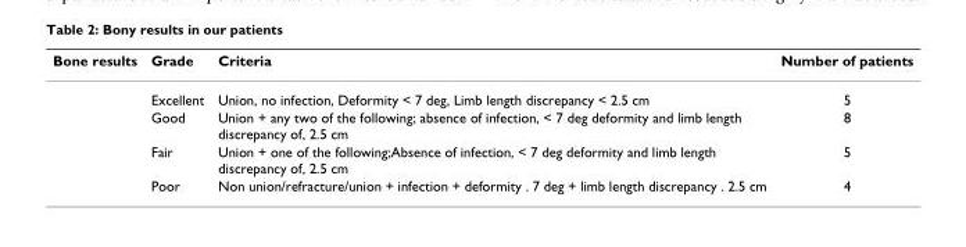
<table><thead><tr><td>Bone results</td><td>Grade</td><td>Criteria</td><td>Number of patients</td></tr></thead><tbody><tr><td></td><td>Excellent</td><td>Union, no infection, Deformity &lt; 7 deg, Limb length discrepancy &lt; 2.5 cm</td><td>5</td></tr><tr><td></td><td>Good</td><td>Union + any two of the following; absence of infection, &lt; 7 deg deformity and limb length discrepancy of, 2.5 cm</td><td>8</td></tr><tr><td></td><td>Fair</td><td>Union + one of the following;Absence of infection, &lt; 7 deg deformity and limb length discrepancy of, 2.5 cm</td><td>5</td></tr><tr><td></td><td>Poor</td><td>Non union/refracture/union + infection + deformity . 7 deg + limb length discrepancy . 2.5 cm</td><td>4</td></tr></tbody></table>